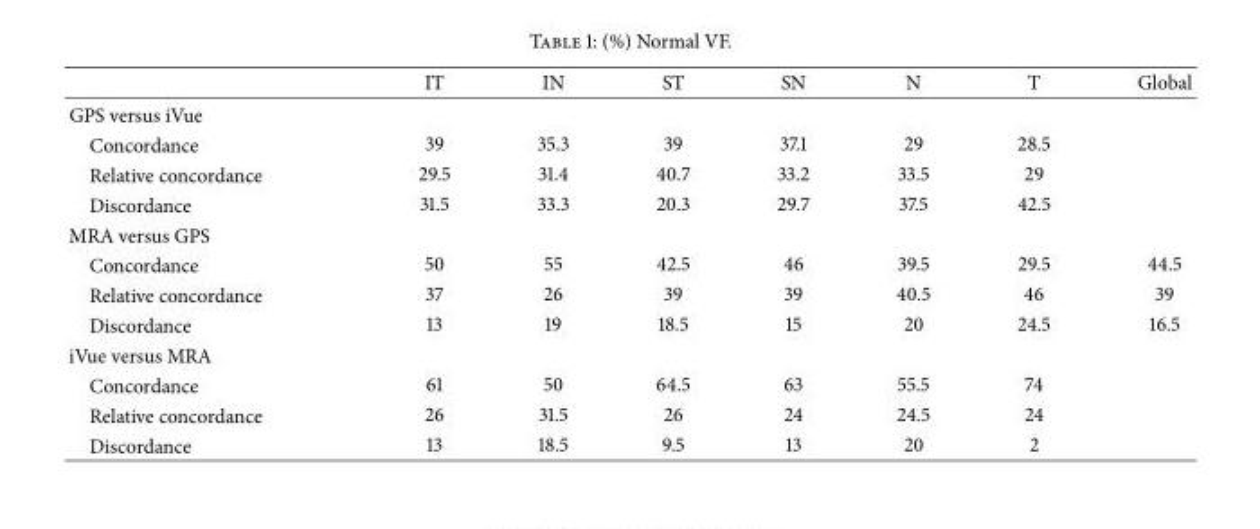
<table><thead><tr><td></td><td>IT</td><td>IN</td><td>ST</td><td>SN</td><td>N</td><td>T</td><td>Global</td></tr></thead><tbody><tr><td colspan="8">GPS versus iVue</td></tr><tr><td>Concordance</td><td>39</td><td>35.3</td><td>39</td><td>37.1</td><td>29</td><td>28.5</td><td></td></tr><tr><td>Relative concordance</td><td>29.5</td><td>31.4</td><td>40.7</td><td>33.2</td><td>33.5</td><td>29</td><td></td></tr><tr><td>Discordance</td><td>31.5</td><td>33.3</td><td>20.3</td><td>29.7</td><td>37.5</td><td>42.5</td><td></td></tr><tr><td colspan="8">MRA versus GPS</td></tr><tr><td>Concordance</td><td>50</td><td>55</td><td>42.5</td><td>46</td><td>39.5</td><td>29.5</td><td>44.5</td></tr><tr><td>Relative concordance</td><td>37</td><td>26</td><td>39</td><td>39</td><td>40.5</td><td>46</td><td>39</td></tr><tr><td>Discordance</td><td>13</td><td>19</td><td>18.5</td><td>15</td><td>20</td><td>24.5</td><td>16.5</td></tr><tr><td colspan="8">iVue versus MRA</td></tr><tr><td>Concordance</td><td>61</td><td>50</td><td>64.5</td><td>63</td><td>55.5</td><td>74</td><td></td></tr><tr><td>Relative concordance</td><td>26</td><td>31.5</td><td>26</td><td>24</td><td>24.5</td><td>24</td><td></td></tr><tr><td>Discordance</td><td>13</td><td>18.5</td><td>9.5</td><td>13</td><td>20</td><td>2</td><td></td></tr></tbody></table>